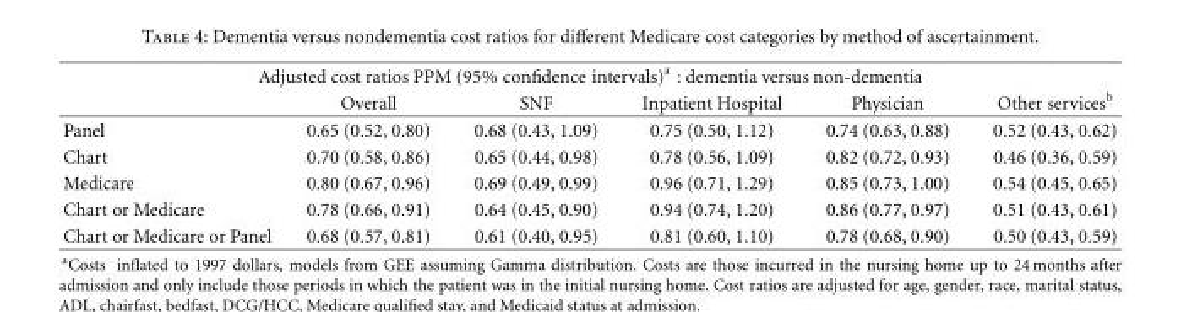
<table><thead><tr><td colspan="6">Adjusted cost ratios PPM (95% confidence intervals)<sup>a</sup> : dementia versus non-dementia</td></tr><tr><td></td><td>Overall</td><td>SNF</td><td>Inpatient Hospital</td><td>Physician</td><td>Other services<sup>b</sup></td></tr></thead><tbody><tr><td>Panel</td><td>0.65 (0.52, 0.80)</td><td>0.68 (0.43, 1.09)</td><td>0.75 (0.50, 1.12)</td><td>0.74 (0.63, 0.88)</td><td>0.52 (0.43, 0.62)</td></tr><tr><td>Chart</td><td>0.70 (0.58, 0.86)</td><td>0.65 (0.44, 0.98)</td><td>0.78 (0.56, 1.09)</td><td>0.82 (0.72, 0.93)</td><td>0.46 (0.36, 0.59)</td></tr><tr><td>Medicare</td><td>0.80 (0.67, 0.96)</td><td>0.69 (0.49, 0.99)</td><td>0.96 (0.71, 1.29)</td><td>0.85 (0.73, 1.00)</td><td>0.54 (0.45, 0.65)</td></tr><tr><td>Chart or Medicare</td><td>0.78 (0.66, 0.91)</td><td>0.64 (0.45, 0.90)</td><td>0.94 (0.74, 1.20)</td><td>0.86 (0.77, 0.97)</td><td>0.51 (0.43, 0.61)</td></tr><tr><td>Chart or Medicare or Panel</td><td>0.68 (0.57, 0.81)</td><td>0.61 (0.40, 0.95)</td><td>0.81 (0.60, 1.10)</td><td>0.78 (0.68, 0.90)</td><td>0.50 (0.43, 0.59)</td></tr></tbody></table>